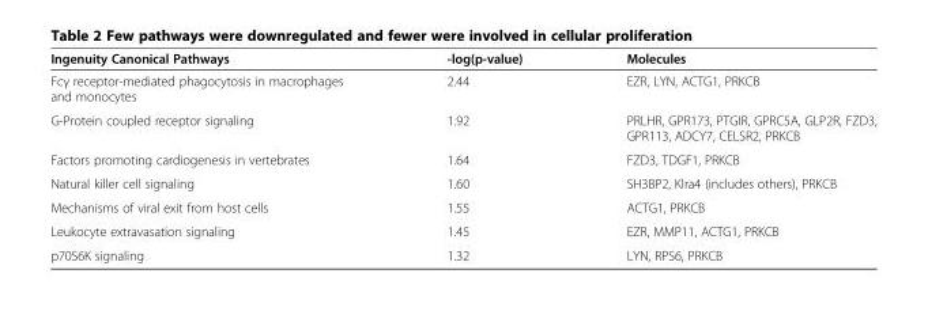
<table><thead><tr><td>Ingenuity Canonical Pathways</td><td>-log(p-value)</td><td>Molecules</td></tr></thead><tbody><tr><td>Fcγ receptor-mediated phagocytosis in macrophages and monocytes</td><td>2.44</td><td>EZR, LYN, ACTG1, PRKCB</td></tr><tr><td>G-Protein coupled receptor signaling</td><td>1.92</td><td>PRLHR, GPR173, PTGIR, GPRC5A, GLP2R, FZD3, GPR113, ADCY7, CELSR2, PRKCB</td></tr><tr><td>Factors promoting cardiogenesis in vertebrates</td><td>1.64</td><td>FZD3, TDGF1, PRKCB</td></tr><tr><td>Natural killer cell signaling</td><td>1.60</td><td>SH3BP2, Klra4 (includes others), PRKCB</td></tr><tr><td>Mechanisms of viral exit from host cells</td><td>1.55</td><td>ACTG1, PRKCB</td></tr><tr><td>Leukocyte extravasation signaling</td><td>1.45</td><td>EZR, MMP11, ACTG1, PRKCB</td></tr><tr><td>p70S6K signaling</td><td>1.32</td><td>LYN, RPS6, PRKCB</td></tr></tbody></table>